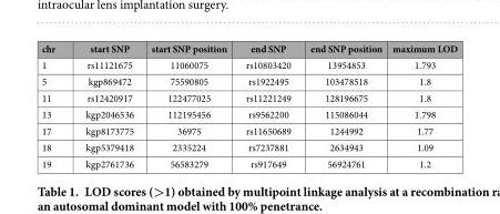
<table><thead><tr><td>chr</td><td>start SNP</td><td>start SNP position</td><td>end SNP</td><td>end SNP position</td><td>maximum LOD</td></tr></thead><tbody><tr><td>1</td><td>rs11121675</td><td>11060075</td><td>rs10803420</td><td>13954853</td><td>1.793</td></tr><tr><td>5</td><td>kgp869472</td><td>75590805</td><td>rs1922495</td><td>103478518</td><td>1.8</td></tr><tr><td>11</td><td>rs12420917</td><td>122477025</td><td>rs11221249</td><td>128196675</td><td>1.8</td></tr><tr><td>13</td><td>kgp2046536</td><td>112195456</td><td>rs9562200</td><td>115086044</td><td>1.798</td></tr><tr><td>17</td><td>kgp8173775</td><td>36975</td><td>rs11650689</td><td>1244992</td><td>1.77</td></tr><tr><td>18</td><td>kgp5379418</td><td>2335224</td><td>rs7237881</td><td>2634943</td><td>1.09</td></tr><tr><td>19</td><td>kgp2761736</td><td>56583279</td><td>rs917649</td><td>56924761</td><td>1.2</td></tr></tbody></table>